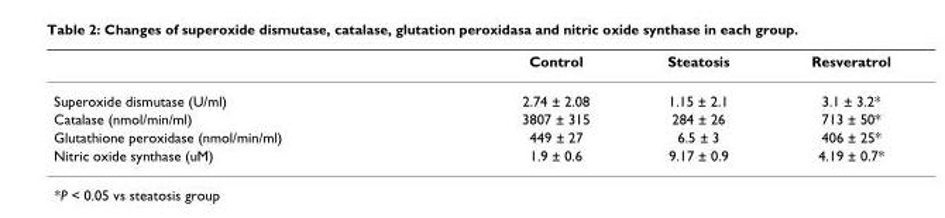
<table><thead><tr><td></td><td>Control</td><td>Steatosis</td><td>Resveratrol</td></tr></thead><tbody><tr><td>Superoxide dismutase (U/ml)</td><td>2.74 ± 2.08</td><td>1.15 ± 2.1</td><td>3.1 ± 3.2*</td></tr><tr><td>Catalase (nmol/min/ml)</td><td>3807 ± 315</td><td>284 ± 26</td><td>713 ± 50*</td></tr><tr><td>Glutathione peroxidase (nmol/min/ml)</td><td>449 ± 27</td><td>6.5 ± 3</td><td>406 ± 25*</td></tr><tr><td>Nitric oxide synthase (uM)</td><td>1.9 ± 0.6</td><td>9.17 ± 0.9</td><td>4.19 ± 0.7*</td></tr></tbody></table>